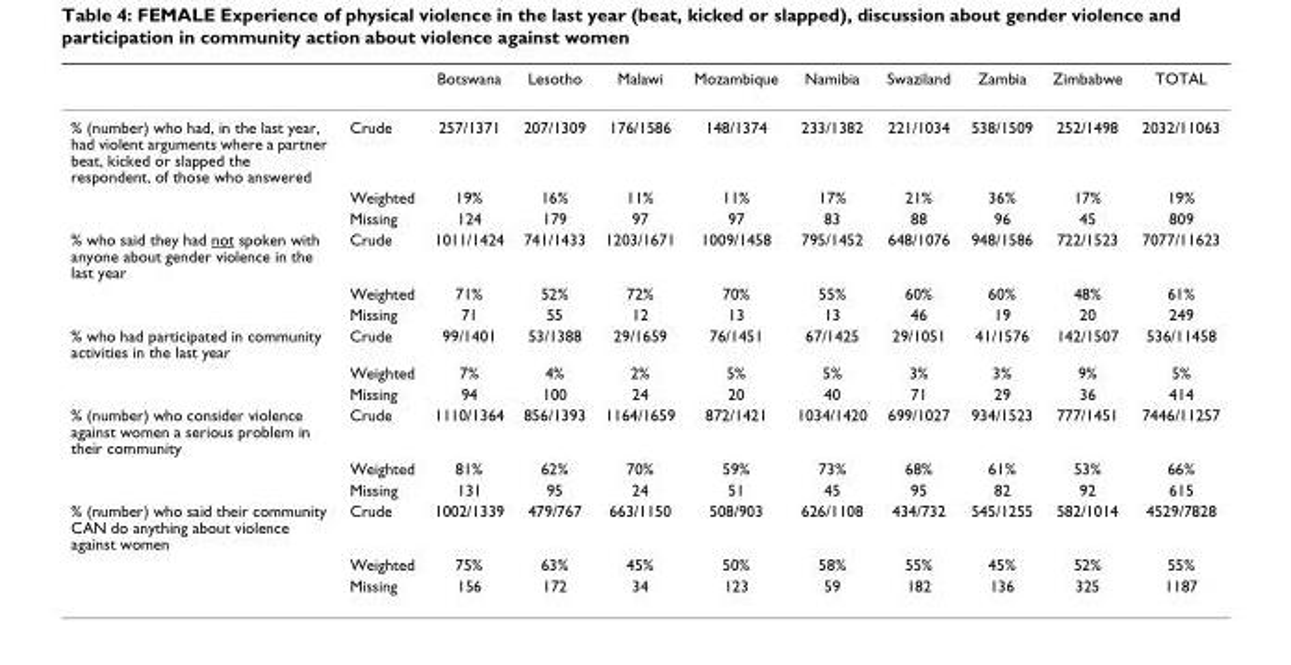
<table><thead><tr><td></td><td></td><td>Botswana</td><td>Lesotho</td><td>Malawi</td><td>Mozambique</td><td>Namibia</td><td>Swaziland</td><td>Zambia</td><td>Zimbabwe</td><td>TOTAL</td></tr></thead><tbody><tr><td rowspan="3">% (number) who had, in the last year, had violent arguments where a partner beat, kicked or slapped the respondent, of those who answered</td><td>Crude</td><td>257/1371</td><td>207/1309</td><td>176/1586</td><td>148/1374</td><td>233/1382</td><td>221/1034</td><td>538/1509</td><td>252/1498</td><td>2032/11063</td></tr><tr><td>Weighted</td><td>19%</td><td>16%</td><td>11%</td><td>11%</td><td>17%</td><td>21%</td><td>36%</td><td>17%</td><td>19%</td></tr><tr><td>Missing</td><td>124</td><td>179</td><td>97</td><td>97</td><td>83</td><td>88</td><td>96</td><td>45</td><td>809</td></tr><tr><td rowspan="3">% who said they had not spoken with anyone about gender violence in the last year</td><td>Crude</td><td>1011/1424</td><td>741/1433</td><td>1203/1671</td><td>1009/1458</td><td>795/1452</td><td>648/1076</td><td>948/1586</td><td>722/1523</td><td>7077/11623</td></tr><tr><td>Weighted</td><td>71%</td><td>52%</td><td>72%</td><td>70%</td><td>55%</td><td>60%</td><td>60%</td><td>48%</td><td>61%</td></tr><tr><td>Missing</td><td>71</td><td>55</td><td>12</td><td>13</td><td>13</td><td>46</td><td>19</td><td>20</td><td>249</td></tr><tr><td rowspan="3">% who had participated in community activities in the last year</td><td>Crude</td><td>99/1401</td><td>53/1388</td><td>29/1659</td><td>76/1451</td><td>67/1425</td><td>29/1051</td><td>41/1576</td><td>142/1507</td><td>536/11458</td></tr><tr><td>Weighted</td><td>7%</td><td>4%</td><td>2%</td><td>5%</td><td>5%</td><td>3%</td><td>3%</td><td>9%</td><td>5%</td></tr><tr><td>Missing</td><td>94</td><td>100</td><td>24</td><td>20</td><td>40</td><td>71</td><td>29</td><td>36</td><td>414</td></tr><tr><td rowspan="3">% (number) who consider violence against women a serious problem in their community</td><td>Crude</td><td>1110/1364</td><td>856/1393</td><td>1164/1659</td><td>872/1421</td><td>1034/1420</td><td>699/1027</td><td>934/1523</td><td>777/1451</td><td>7446/11257</td></tr><tr><td>Weighted</td><td>81%</td><td>62%</td><td>70%</td><td>59%</td><td>73%</td><td>68%</td><td>61%</td><td>53%</td><td>66%</td></tr><tr><td>Missing</td><td>131</td><td>95</td><td>24</td><td>51</td><td>45</td><td>95</td><td>82</td><td>92</td><td>615</td></tr><tr><td rowspan="3">% (number) who said their community CAN do anything about violence against women</td><td>Crude</td><td>1002/1339</td><td>479/767</td><td>663/1150</td><td>508/903</td><td>626/1108</td><td>434/732</td><td>545/1255</td><td>582/1014</td><td>4529/7828</td></tr><tr><td>Weighted</td><td>75%</td><td>63%</td><td>45%</td><td>50%</td><td>58%</td><td>55%</td><td>45%</td><td>52%</td><td>55%</td></tr><tr><td>Missing</td><td>156</td><td>172</td><td>34</td><td>123</td><td>59</td><td>182</td><td>136</td><td>325</td><td>1187</td></tr></tbody></table>